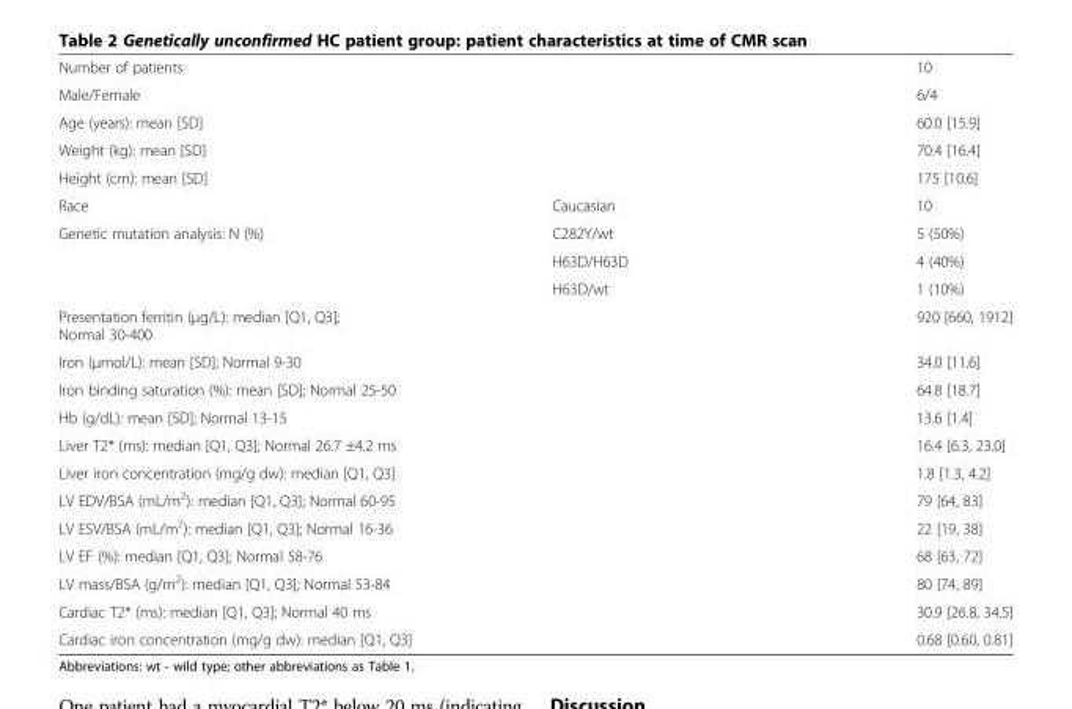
<table><tbody><tr><td>Number of patients</td><td></td><td>10</td></tr><tr><td>Male/Female</td><td></td><td>6/4</td></tr><tr><td>Age (years): mean [SD]</td><td></td><td>60.0 [15.9]</td></tr><tr><td>Weight (kg): mean [SD]</td><td></td><td>70.4 [16.4]</td></tr><tr><td>Height (cm): mean [SD]</td><td></td><td>175 [10.6]</td></tr><tr><td>Race</td><td>Caucasian</td><td>10</td></tr><tr><td rowspan="3">Genetic mutation analysis: N (%)</td><td>C282Y/wt</td><td>5 (50%)</td></tr><tr><td>H63D/H63D</td><td>4 (40%)</td></tr><tr><td>H63D/wt</td><td>1 (10%)</td></tr><tr><td>Presentation ferritin (μg/L): median [Q1, Q3]; Normal 30-400</td><td></td><td>920 [660, 1912]</td></tr><tr><td>Iron (μmol/L): mean [SD]; Normal 9-30</td><td></td><td>34.0 [11.6]</td></tr><tr><td>Iron binding saturation (%): mean [SD]; Normal 25-50</td><td></td><td>64.8 [18.7]</td></tr><tr><td>Hb (g/dL): mean [SD]; Normal 13-15</td><td></td><td>13.6 [1.4]</td></tr><tr><td>Liver T2* (ms): median [Q1, Q3]; Normal 26.7 ±4.2 ms</td><td></td><td>16.4 [6.3, 23.0]</td></tr><tr><td>Liver iron concentration (mg/g dw): median [Q1, Q3]</td><td></td><td>1.8 [1.3, 4.2]</td></tr><tr><td>LV EDV/BSA (mL/m<sup>2</sup>): median [Q1, Q3]; Normal 60-95</td><td></td><td>79 [64, 83]</td></tr><tr><td>LV ESV/BSA (mL/m<sup>2</sup>): median [Q1, Q3]; Normal 16-36</td><td></td><td>22 [19, 38]</td></tr><tr><td>LV EF (%): median [Q1, Q3]; Normal 58-76</td><td></td><td>68 [63, 72]</td></tr><tr><td>LV mass/BSA (g/m<sup>2</sup>): median [Q1, Q3]; Normal 53-84</td><td></td><td>80 [74, 89]</td></tr><tr><td>Cardiac T2* (ms): median [Q1, Q3]; Normal 40 ms</td><td></td><td>30.9 [26.8, 34.5]</td></tr><tr><td>Cardiac iron concentration (mg/g dw): median [Q1, Q3]</td><td></td><td>0.68 [0.60, 0.81]</td></tr></tbody></table>